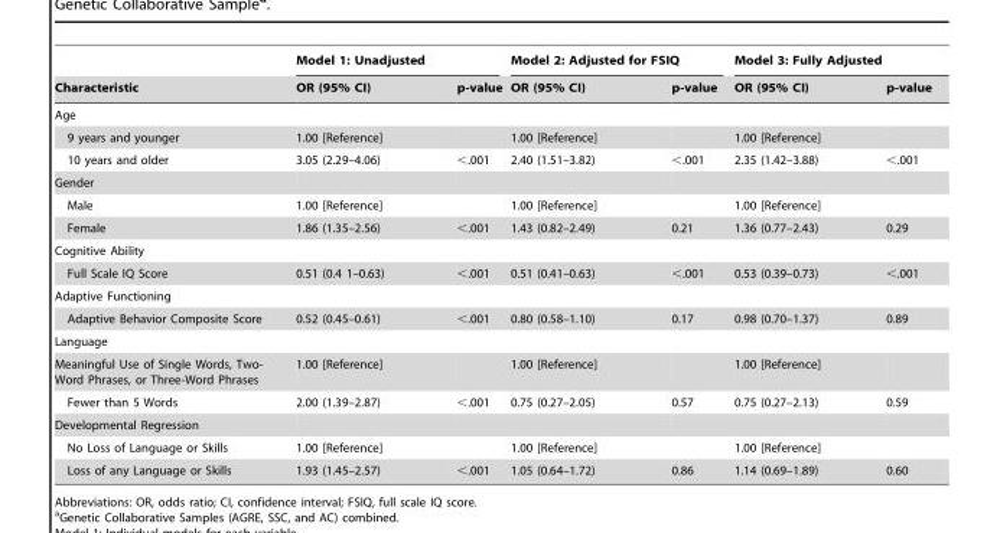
<table><thead><tr><td rowspan="2">Characteristic</td><td colspan="2">Model 1: Unadjusted</td><td colspan="2">Model 2: Adjusted for FSIQ</td><td colspan="2">Model 3: Fully Adjusted</td></tr><tr><td>OR (95% CI)</td><td>p-value</td><td>OR (95% CI)</td><td>p-value</td><td>OR (95% CI)</td><td>p-value</td></tr></thead><tbody><tr><td colspan="7">Age</td></tr><tr><td>9 years and younger</td><td>1.00 [Reference]</td><td></td><td>1.00 [Reference]</td><td></td><td>1.00 [Reference]</td><td></td></tr><tr><td>10 years and older</td><td>3.05 (2.29–4.06)</td><td>&lt;.001</td><td>2.40 (1.51–3.82)</td><td>&lt;.001</td><td>2.35 (1.42–3.88)</td><td>&lt;.001</td></tr><tr><td colspan="7">Gender</td></tr><tr><td>Male</td><td>1.00 [Reference]</td><td></td><td>1.00 [Reference]</td><td></td><td>1.00 [Reference]</td><td></td></tr><tr><td>Female</td><td>1.86 (1.35–2.56)</td><td>&lt;.001</td><td>1.43 (0.82–2.49)</td><td>0.21</td><td>1.36 (0.77–2.43)</td><td>0.29</td></tr><tr><td colspan="7">Cognitive Ability</td></tr><tr><td>Full Scale IQ Score</td><td>0.51 (0.4 1–0.63)</td><td>&lt;.001</td><td>0.51 (0.41–0.63)</td><td>&lt;.001</td><td>0.53 (0.39–0.73)</td><td>&lt;.001</td></tr><tr><td colspan="7">Adaptive Functioning</td></tr><tr><td>Adaptive Behavior Composite Score</td><td>0.52 (0.45–0.61)</td><td>&lt;.001</td><td>0.80 (0.58–1.10)</td><td>0.17</td><td>0.98 (0.70–1.37)</td><td>0.89</td></tr><tr><td colspan="7">Language</td></tr><tr><td>Meaningful Use of Single Words, Two- Word Phrases, or Three-Word Phrases</td><td>1.00 [Reference]</td><td></td><td>1.00 [Reference]</td><td></td><td>1.00 [Reference]</td><td></td></tr><tr><td>Fewer than 5 Words</td><td>2.00 (1.39–2.87)</td><td>&lt;.001</td><td>0.75 (0.27–2.05)</td><td>0.57</td><td>0.75 (0.27–2.13)</td><td>0.59</td></tr><tr><td colspan="7">Developmental Regression</td></tr><tr><td>No Loss of Language or Skills</td><td>1.00 [Reference]</td><td></td><td>1.00 [Reference]</td><td></td><td>1.00 [Reference]</td><td></td></tr><tr><td>Loss of any Language or Skills</td><td>1.93 (1.45–2.57)</td><td>&lt;.001</td><td>1.05 (0.64–1.72)</td><td>0.86</td><td>1.14 (0.69–1.89)</td><td>0.60</td></tr></tbody></table>